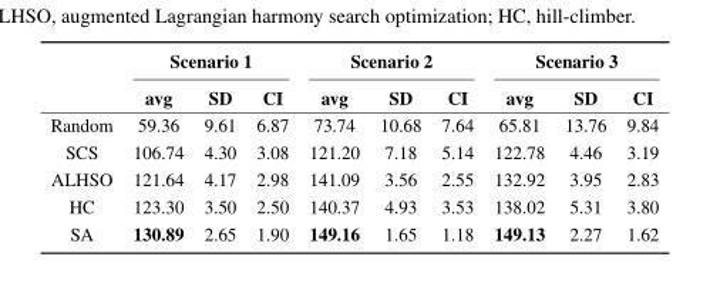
<table><thead><tr><td rowspan="2"></td><td colspan="3">Scenario 1</td><td colspan="3">Scenario 2</td><td colspan="3">Scenario 3</td></tr><tr><td>avg</td><td>SD</td><td>CI</td><td>avg</td><td>SD</td><td>CI</td><td>avg</td><td>SD</td><td>CI</td></tr></thead><tbody><tr><td>Random</td><td>59.36</td><td>9.61</td><td>6.87</td><td>73.74</td><td>10.68</td><td>7.64</td><td>65.81</td><td>13.76</td><td>9.84</td></tr><tr><td>SCS</td><td>106.74</td><td>4.30</td><td>3.08</td><td>121.20</td><td>7.18</td><td>5.14</td><td>122.78</td><td>4.46</td><td>3.19</td></tr><tr><td>ALHSO</td><td>121.64</td><td>4.17</td><td>2.98</td><td>141.09</td><td>3.56</td><td>2.55</td><td>132.92</td><td>3.95</td><td>2.83</td></tr><tr><td>HC</td><td>123.30</td><td>3.50</td><td>2.50</td><td>140.37</td><td>4.93</td><td>3.53</td><td>138.02</td><td>5.31</td><td>3.80</td></tr><tr><td>SA</td><td>130.89</td><td>2.65</td><td>1.90</td><td>149.16</td><td>1.65</td><td>1.18</td><td>149.13</td><td>2.27</td><td>1.62</td></tr></tbody></table>